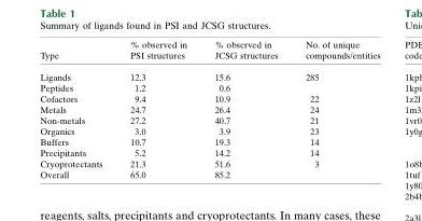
<table><thead><tr><td>Type</td><td>% observed in PSI structures</td><td>% observed in JCSG structures</td><td>No. of unique compounds/entities</td></tr></thead><tbody><tr><td>Ligands</td><td>12.3</td><td>15.6</td><td>285</td></tr><tr><td>Peptides</td><td>1.2</td><td>0.6</td><td></td></tr><tr><td>Cofactors</td><td>9.4</td><td>10.9</td><td>22</td></tr><tr><td>Metals</td><td>24.7</td><td>26.4</td><td>24</td></tr><tr><td>Non-metals</td><td>27.2</td><td>40.7</td><td>21</td></tr><tr><td>Organics</td><td>3.0</td><td>3.9</td><td>23</td></tr><tr><td>Buffers</td><td>10.7</td><td>19.3</td><td>14</td></tr><tr><td>Precipitants</td><td>5.2</td><td>14.2</td><td>14</td></tr><tr><td>Cryoprotectants</td><td>21.3</td><td>51.6</td><td>3</td></tr><tr><td>Overall</td><td>65.0</td><td>85.2</td><td></td></tr></tbody></table>